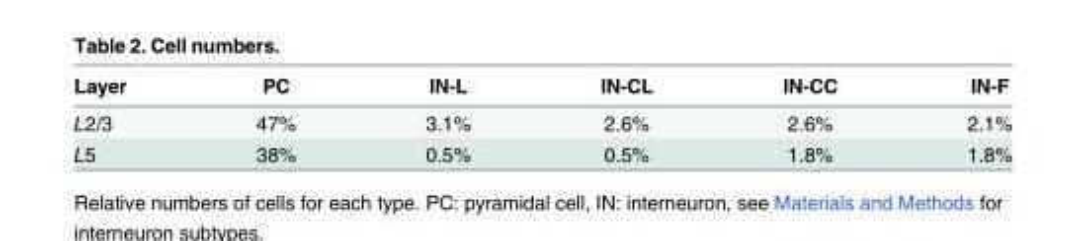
<table><thead><tr><td>Layer</td><td>PC</td><td>IN-L</td><td>IN-CL</td><td>IN-CC</td><td>IN-F</td></tr></thead><tbody><tr><td>L2/3</td><td>47%</td><td>3.1%</td><td>2.6%</td><td>2.6%</td><td>2.1%</td></tr><tr><td>L5</td><td>38%</td><td>0.5%</td><td>0.5%</td><td>1.8%</td><td>1.8%</td></tr></tbody></table>